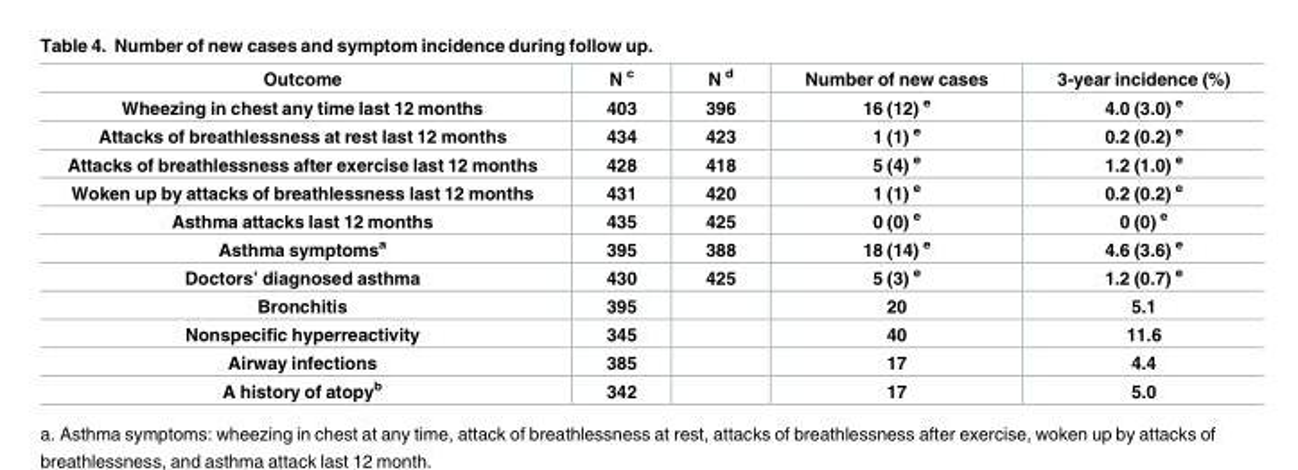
<table><thead><tr><td>Outcome</td><td>N <sup>c</sup></td><td>N <sup>d</sup></td><td>Number of new cases</td><td>3-year incidence (%)</td></tr></thead><tbody><tr><td>Wheezing in chest any time last 12 months</td><td>403</td><td>396</td><td>16 (12) <sup>e</sup></td><td>4.0 (3.0) <sup>e</sup></td></tr><tr><td>Attacks of breathlessness at rest last 12 months</td><td>434</td><td>423</td><td>1 (1) <sup>e</sup></td><td>0.2 (0.2) <sup>e</sup></td></tr><tr><td>Attacks of breathlessness after exercise last 12 months</td><td>428</td><td>418</td><td>5 (4) <sup>e</sup></td><td>1.2 (1.0) <sup>e</sup></td></tr><tr><td>Woken up by attacks of breathlessness last 12 months</td><td>431</td><td>420</td><td>1 (1) <sup>e</sup></td><td>0.2 (0.2) <sup>e</sup></td></tr><tr><td>Asthma attacks last 12 months</td><td>435</td><td>425</td><td>0 (0) <sup>e</sup></td><td>0 (0) <sup>e</sup></td></tr><tr><td>Asthma symptoms<sup>a</sup></td><td>395</td><td>388</td><td>18 (14) <sup>e</sup></td><td>4.6 (3.6) <sup>e</sup></td></tr><tr><td>Doctors’ diagnosed asthma</td><td>430</td><td>425</td><td>5 (3) <sup>e</sup></td><td>1.2 (0.7) <sup>e</sup></td></tr><tr><td>Bronchitis</td><td>395</td><td></td><td>20</td><td>5.1</td></tr><tr><td>Nonspecific hyperreactivity</td><td>345</td><td></td><td>40</td><td>11.6</td></tr><tr><td>Airway infections</td><td>385</td><td></td><td>17</td><td>4.4</td></tr><tr><td>A history of atopy<sup>b</sup></td><td>342</td><td></td><td>17</td><td>5.0</td></tr></tbody></table>